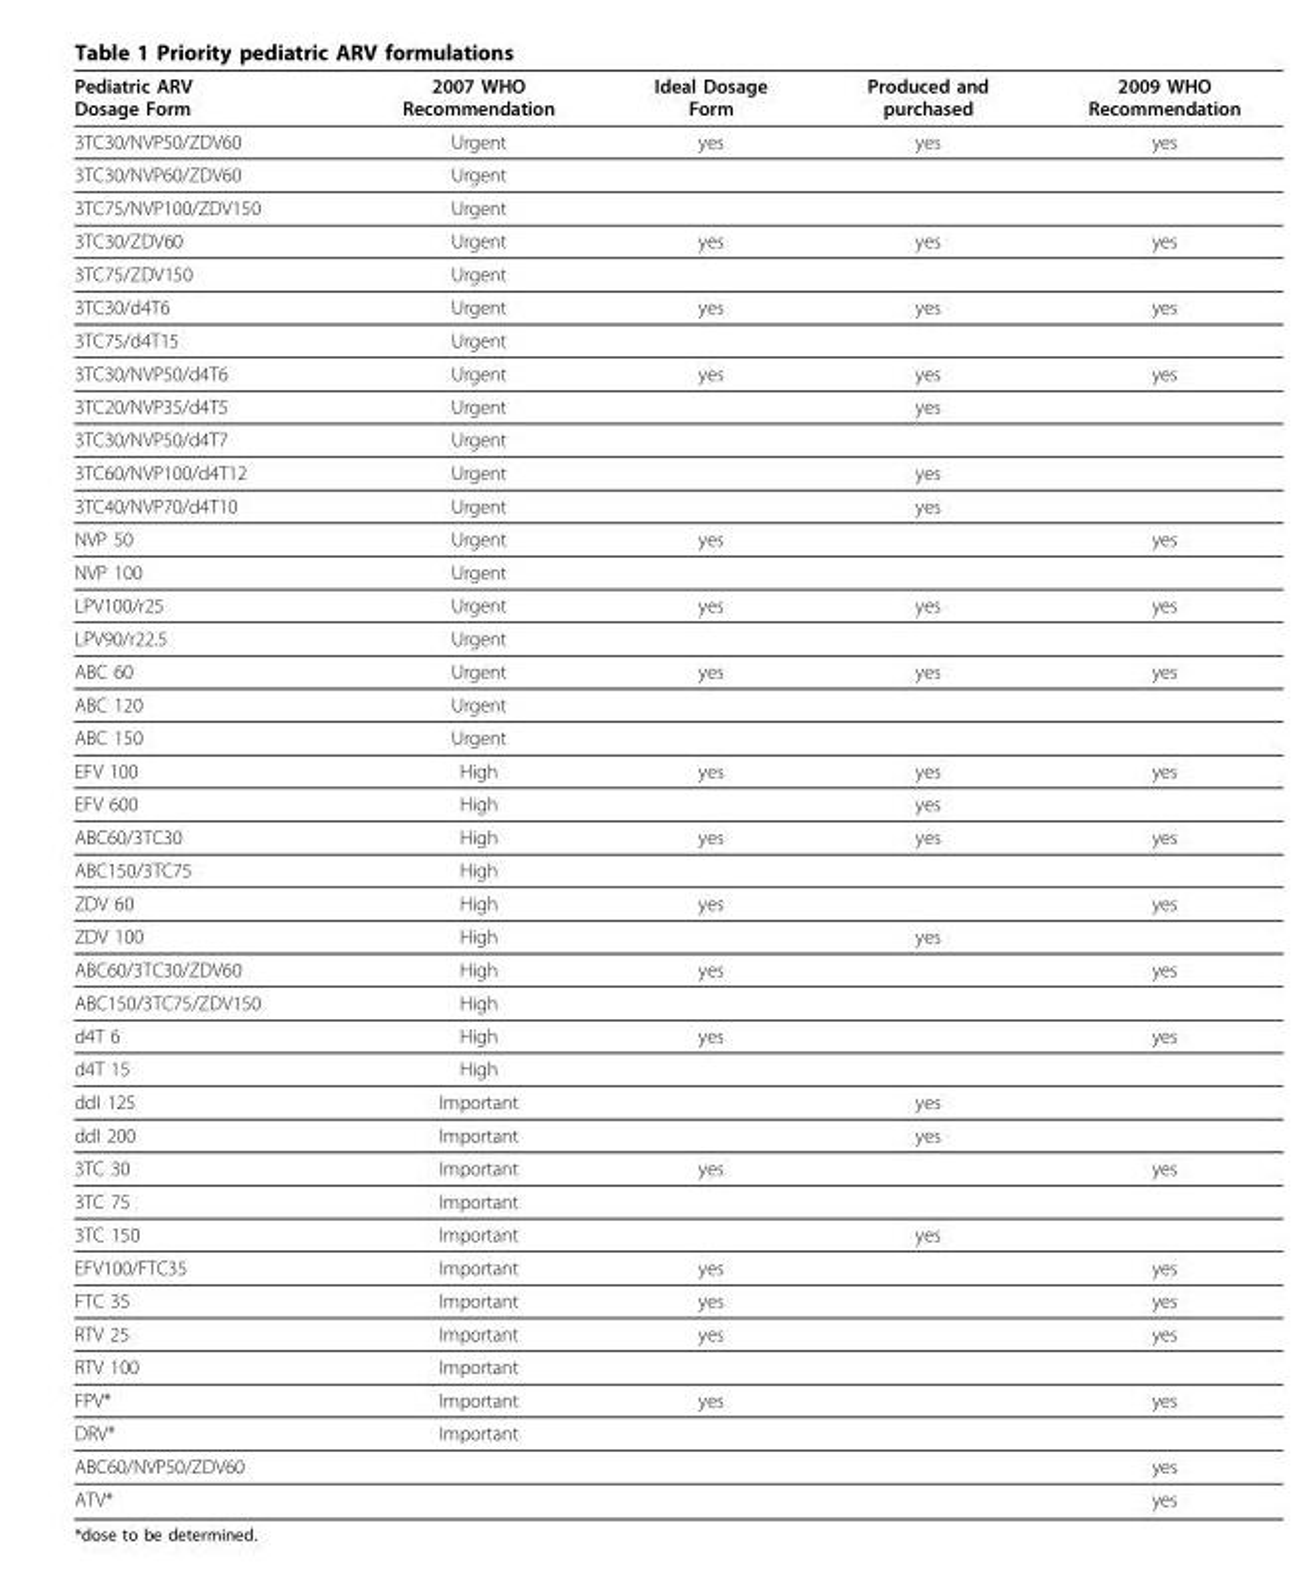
<table><thead><tr><td>Pediatric ARV Dosage Form</td><td>2007 WHO Recommendation</td><td>Ideal Dosage Form</td><td>Produced and purchased</td><td>2009 WHO Recommendation</td></tr></thead><tbody><tr><td>3TC30/NVP50/ZDV60</td><td>Urgent</td><td>yes</td><td>yes</td><td>yes</td></tr><tr><td>3TC30/NVP60/ZDV60</td><td>Urgent</td><td></td><td></td><td></td></tr><tr><td>3TC75/NVP100/ZDV150</td><td>Urgent</td><td></td><td></td><td></td></tr><tr><td>3TC30/ZDV60</td><td>Urgent</td><td>yes</td><td>yes</td><td>yes</td></tr><tr><td>3TC75/ZDV150</td><td>Urgent</td><td></td><td></td><td></td></tr><tr><td>3TC30/d4T6</td><td>Urgent</td><td>yes</td><td>yes</td><td>yes</td></tr><tr><td>3TC75/d4T15</td><td>Urgent</td><td></td><td></td><td></td></tr><tr><td>3TC30/NVP50/d4T6</td><td>Urgent</td><td>yes</td><td>yes</td><td>yes</td></tr><tr><td>3TC20/NVP35/d4T5</td><td>Urgent</td><td></td><td>yes</td><td></td></tr><tr><td>3TC30/NVP50/d4T7</td><td>Urgent</td><td></td><td></td><td></td></tr><tr><td>3TC60/NVP100/d4T12</td><td>Urgent</td><td></td><td>yes</td><td></td></tr><tr><td>3TC40/NVP70/d4T10</td><td>Urgent</td><td></td><td>yes</td><td></td></tr><tr><td>NVP 50</td><td>Urgent</td><td>yes</td><td></td><td>yes</td></tr><tr><td>NVP 100</td><td>Urgent</td><td></td><td></td><td></td></tr><tr><td>LPV100/r25</td><td>Urgent</td><td>yes</td><td>yes</td><td>yes</td></tr><tr><td>LPV90/r22.5</td><td>Urgent</td><td></td><td></td><td></td></tr><tr><td>ABC 60</td><td>Urgent</td><td>yes</td><td>yes</td><td>yes</td></tr><tr><td>ABC 120</td><td>Urgent</td><td></td><td></td><td></td></tr><tr><td>ABC 150</td><td>Urgent</td><td></td><td></td><td></td></tr><tr><td>EFV 100</td><td>High</td><td>yes</td><td>yes</td><td>yes</td></tr><tr><td>EFV 600</td><td>High</td><td></td><td>yes</td><td></td></tr><tr><td>ABC60/3TC30</td><td>High</td><td>yes</td><td>yes</td><td>yes</td></tr><tr><td>ABC150/3TC75</td><td>High</td><td></td><td></td><td></td></tr><tr><td>ZDV 60</td><td>High</td><td>yes</td><td></td><td>yes</td></tr><tr><td>ZDV 100</td><td>High</td><td></td><td>yes</td><td></td></tr><tr><td>ABC60/3TC30/ZDV60</td><td>High</td><td>yes</td><td></td><td>yes</td></tr><tr><td>ABC150/3TC75/ZDV150</td><td>High</td><td></td><td></td><td></td></tr><tr><td>d4T 6</td><td>High</td><td>yes</td><td></td><td>yes</td></tr><tr><td>d4T 15</td><td>High</td><td></td><td></td><td></td></tr><tr><td>ddI 125</td><td>Important</td><td></td><td>yes</td><td></td></tr><tr><td>ddI 200</td><td>Important</td><td></td><td>yes</td><td></td></tr><tr><td>3TC 30</td><td>Important</td><td>yes</td><td></td><td>yes</td></tr><tr><td>3TC 75</td><td>Important</td><td></td><td></td><td></td></tr><tr><td>3TC 150</td><td>Important</td><td></td><td>yes</td><td></td></tr><tr><td>EFV100/FTC35</td><td>Important</td><td>yes</td><td></td><td>yes</td></tr><tr><td>FTC 35</td><td>Important</td><td>yes</td><td></td><td>yes</td></tr><tr><td>RTV 25</td><td>Important</td><td>yes</td><td></td><td>yes</td></tr><tr><td>RTV 100</td><td>Important</td><td></td><td></td><td></td></tr><tr><td>FPV*</td><td>Important</td><td>yes</td><td></td><td>yes</td></tr><tr><td>DRV*</td><td>Important</td><td></td><td></td><td></td></tr><tr><td>ABC60/NVP50/ZDV60</td><td></td><td></td><td></td><td>yes</td></tr><tr><td>ATV*</td><td></td><td></td><td></td><td>yes</td></tr></tbody></table>